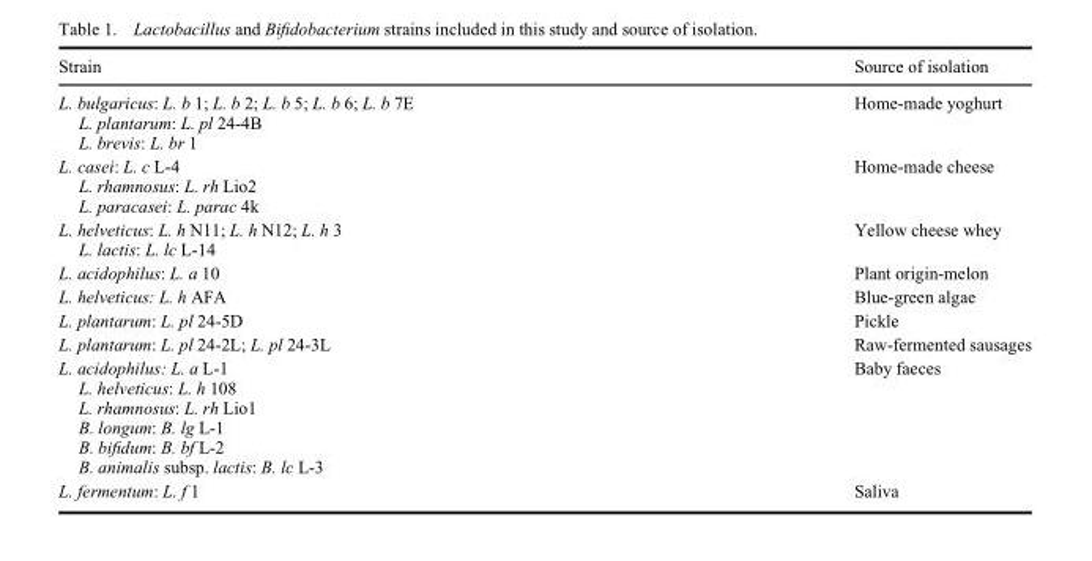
<table><thead><tr><td>Strain</td><td>Source of isolation</td></tr></thead><tbody><tr><td>L. bulgaricus: L. b 1; L. b 2; L. b 5; L. b 6; L. b 7E L. plantarum: L. pl 24-4B L. brevis: L. br 1</td><td>Home-made yoghurt</td></tr><tr><td>L. casei: L. c L-4 L. rhamnosus: L. rh Lio2 L. paracasei: L. parac 4k</td><td>Home-made cheese</td></tr><tr><td>L. helveticus: L. h N11; L. h N12; L. h 3 L. lactis: L. lc L-14</td><td>Yellow cheese whey</td></tr><tr><td>L. acidophilus: L. a 10</td><td>Plant origin-melon</td></tr><tr><td>L. helveticus: L. h AFA</td><td>Blue-green algae</td></tr><tr><td>L. plantarum: L. pl 24-5D</td><td>Pickle</td></tr><tr><td>L. plantarum: L. pl 24-2L; L. pl 24-3L</td><td>Raw-fermented sausages</td></tr><tr><td>L. acidophilus: L. a L-1 L. helveticus: L. h 108 L. rhamnosus: L. rh Lio1 B. longum: B. lg L-1 B. bifidum: B. bf L-2 B. animalis subsp. lactis: B. lc L-3</td><td>Baby faeces</td></tr><tr><td>L. fermentum: L. f 1</td><td>Saliva</td></tr></tbody></table>